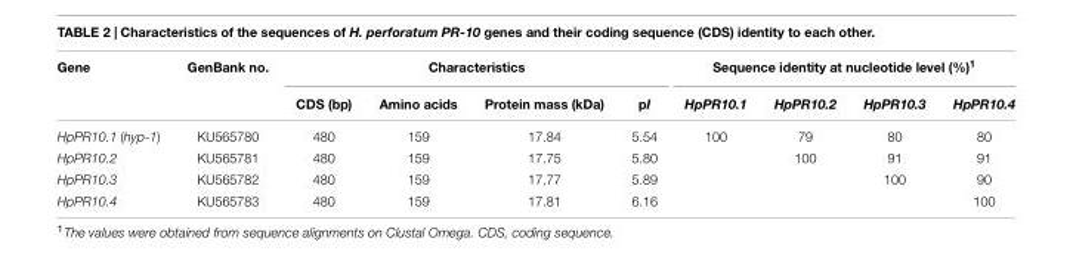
<table><thead><tr><td rowspan="2">Gene</td><td rowspan="2">GenBank no.</td><td colspan="4">Characteristics</td><td colspan="4">Sequence identity at nucleotide level (%)<sup>1</sup></td></tr><tr><td>CDS (bp)</td><td>Amino acids</td><td>Protein mass (kDa)</td><td>pI</td><td>HpPR10.1</td><td>HpPR10.2</td><td>HpPR10.3</td><td>HpPR10.4</td></tr></thead><tbody><tr><td>HpPR10.1 (hyp-1)</td><td>KU565780</td><td>480</td><td>159</td><td>17.84</td><td>5.54</td><td>100</td><td>79</td><td>80</td><td>80</td></tr><tr><td>HpPR10.2</td><td>KU565781</td><td>480</td><td>159</td><td>17.75</td><td>5.80</td><td></td><td>100</td><td>91</td><td>91</td></tr><tr><td>HpPR10.3</td><td>KU565782</td><td>480</td><td>159</td><td>17.77</td><td>5.89</td><td></td><td></td><td>100</td><td>90</td></tr><tr><td>HpPR10.4</td><td>KU565783</td><td>480</td><td>159</td><td>17.81</td><td>6.16</td><td></td><td></td><td></td><td>100</td></tr></tbody></table>